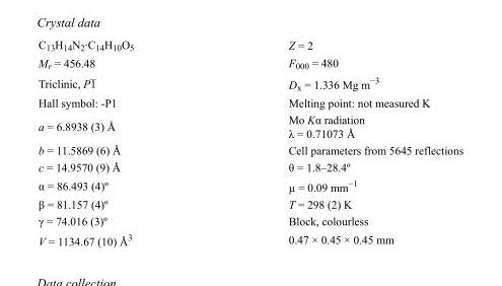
<table><tbody><tr><td>C<sub>13</sub>H<sub>14</sub>N<sub>2</sub>·C<sub>14</sub>H<sub>10</sub>O<sub>5</sub></td><td>Z = 2</td></tr><tr><td>M<sub>r</sub> = 456.48</td><td>F<sub>000</sub> = 480</td></tr><tr><td>Triclinic, P1</td><td>D<sub>x</sub> = 1.336 Mg m<sup>−3</sup></td></tr><tr><td>Hall symbol: -P1</td><td>Melting point: not measured K</td></tr><tr><td>a = 6.8938 (3) Å</td><td>Mo Kα radiation λ = 0.71073 Å</td></tr><tr><td>b = 11.5869 (6) Å</td><td>Cell parameters from 5645 reflections</td></tr><tr><td>c = 14.9570 (9) Å</td><td>θ = 1.8–28.4º</td></tr><tr><td>α = 86.493 (4)º</td><td>µ = 0.09 mm<sup>−1</sup></td></tr><tr><td>β = 81.157 (4)º</td><td>T = 298 (2) K</td></tr><tr><td>γ = 74.016 (3)º</td><td>Block, colourless</td></tr><tr><td>V = 1134.67 (10) Å<sup>3</sup></td><td>0.47 × 0.45 × 0.45 mm</td></tr></tbody></table>